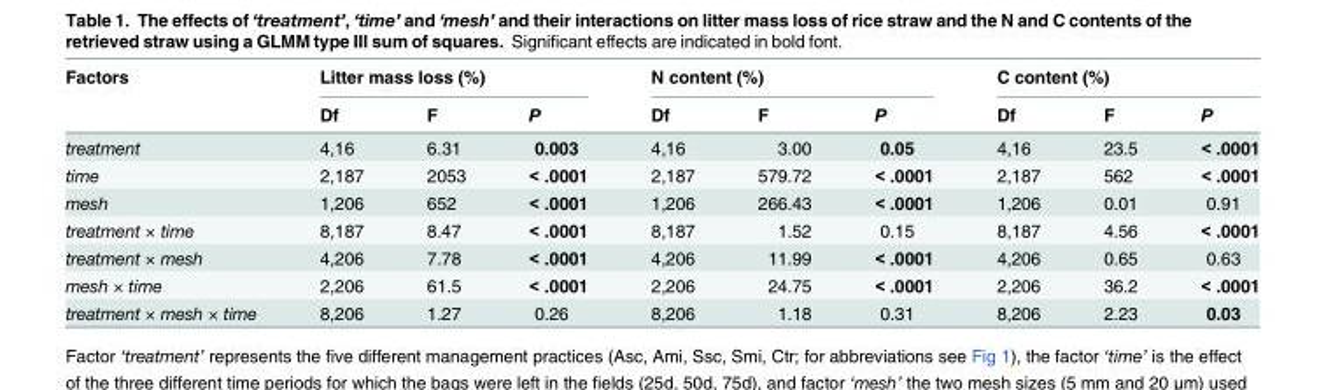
<table><thead><tr><td rowspan="2">Factors</td><td colspan="3">Litter mass loss (%)</td><td colspan="3">N content (%)</td><td colspan="3">C content (%)</td></tr><tr><td>Df</td><td>F</td><td>P</td><td>Df</td><td>F</td><td>P</td><td>Df</td><td>F</td><td>P</td></tr></thead><tbody><tr><td>treatment</td><td>4,16</td><td>6.31</td><td>0.003</td><td>4,16</td><td>3.00</td><td>0.05</td><td>4,16</td><td>23.5</td><td>&lt; .0001</td></tr><tr><td>time</td><td>2,187</td><td>2053</td><td>&lt; .0001</td><td>2,187</td><td>579.72</td><td>&lt; .0001</td><td>2,187</td><td>562</td><td>&lt; .0001</td></tr><tr><td>mesh</td><td>1,206</td><td>652</td><td>&lt; .0001</td><td>1,206</td><td>266.43</td><td>&lt; .0001</td><td>1,206</td><td>0.01</td><td>0.91</td></tr><tr><td>treatment × time</td><td>8,187</td><td>8.47</td><td>&lt; .0001</td><td>8,187</td><td>1.52</td><td>0.15</td><td>8,187</td><td>4.56</td><td>&lt; .0001</td></tr><tr><td>treatment × mesh</td><td>4,206</td><td>7.78</td><td>&lt; .0001</td><td>4,206</td><td>11.99</td><td>&lt; .0001</td><td>4,206</td><td>0.65</td><td>0.63</td></tr><tr><td>mesh × time</td><td>2,206</td><td>61.5</td><td>&lt; .0001</td><td>2,206</td><td>24.75</td><td>&lt; .0001</td><td>2,206</td><td>36.2</td><td>&lt; .0001</td></tr><tr><td>treatment × mesh × time</td><td>8,206</td><td>1.27</td><td>0.26</td><td>8,206</td><td>1.18</td><td>0.31</td><td>8,206</td><td>2.23</td><td>0.03</td></tr></tbody></table>